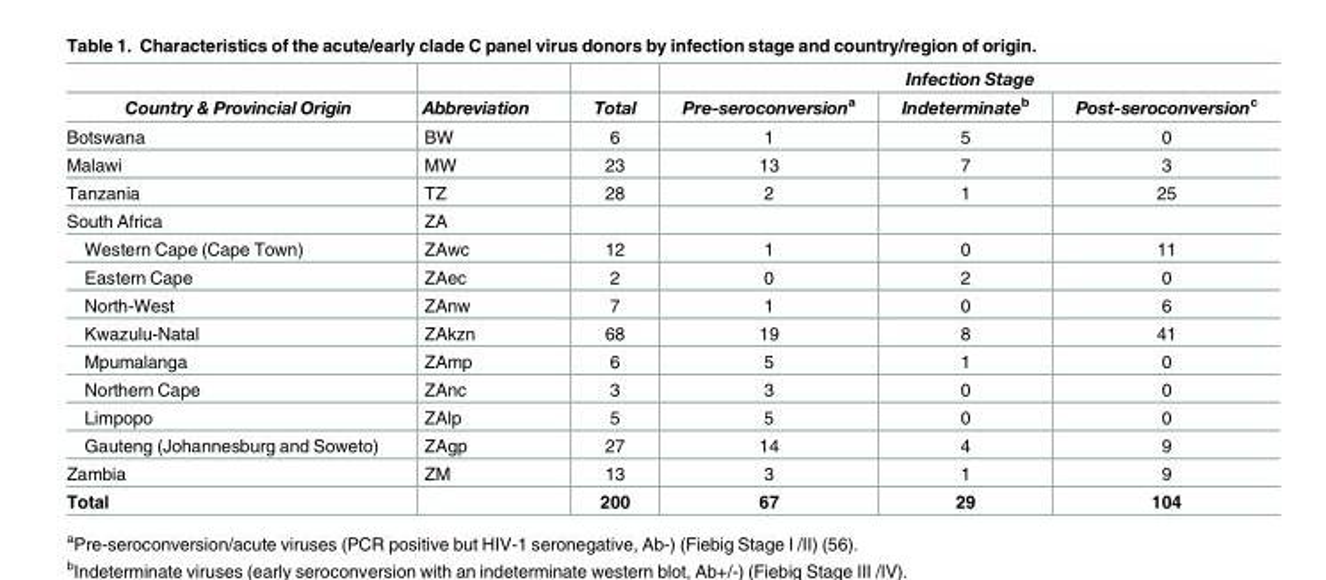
<table><thead><tr><td rowspan="2">Country &amp; Provincial Origin</td><td rowspan="2">Abbreviation</td><td rowspan="2">Total</td><td colspan="3">Infection Stage</td></tr><tr><td>Pre-seroconversion<sup>a</sup></td><td>Indeterminate<sup>b</sup></td><td>Post-seroconversion<sup>c</sup></td></tr></thead><tbody><tr><td>Botswana</td><td>BW</td><td>6</td><td>1</td><td>5</td><td>0</td></tr><tr><td>Malawi</td><td>MW</td><td>23</td><td>13</td><td>7</td><td>3</td></tr><tr><td>Tanzania</td><td>TZ</td><td>28</td><td>2</td><td>1</td><td>25</td></tr><tr><td>South Africa</td><td>ZA</td><td></td><td></td><td></td><td></td></tr><tr><td>Western Cape (Cape Town)</td><td>ZAwc</td><td>12</td><td>1</td><td>0</td><td>11</td></tr><tr><td>Eastern Cape</td><td>ZAec</td><td>2</td><td>0</td><td>2</td><td>0</td></tr><tr><td>North-West</td><td>ZAnw</td><td>7</td><td>1</td><td>0</td><td>6</td></tr><tr><td>Kwazulu-Natal</td><td>ZAkzn</td><td>68</td><td>19</td><td>8</td><td>41</td></tr><tr><td>Mpumalanga</td><td>ZAmp</td><td>6</td><td>5</td><td>1</td><td>0</td></tr><tr><td>Northern Cape</td><td>ZAnc</td><td>3</td><td>3</td><td>0</td><td>0</td></tr><tr><td>Limpopo</td><td>ZAlp</td><td>5</td><td>5</td><td>0</td><td>0</td></tr><tr><td>Gauteng (Johannesburg and Soweto)</td><td>ZAgp</td><td>27</td><td>14</td><td>4</td><td>9</td></tr><tr><td>Zambia</td><td>ZM</td><td>13</td><td>3</td><td>1</td><td>9</td></tr><tr><td>Total</td><td></td><td>200</td><td>67</td><td>29</td><td>104</td></tr></tbody></table>